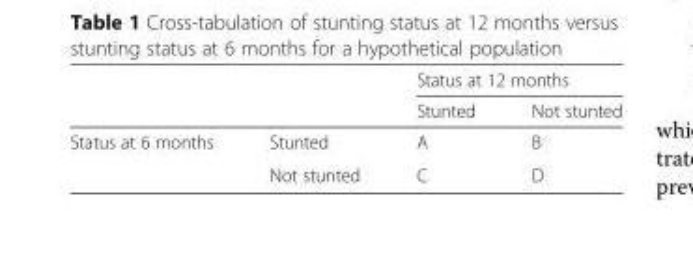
<table><thead><tr><td rowspan="2"></td><td rowspan="2"></td><td colspan="2">Status at 12 months</td></tr><tr><td>Stunted</td><td>Not stunted</td></tr></thead><tbody><tr><td rowspan="2">Status at 6 months</td><td>Stunted</td><td>A</td><td>B</td></tr><tr><td>Not stunted</td><td>C</td><td>D</td></tr></tbody></table>